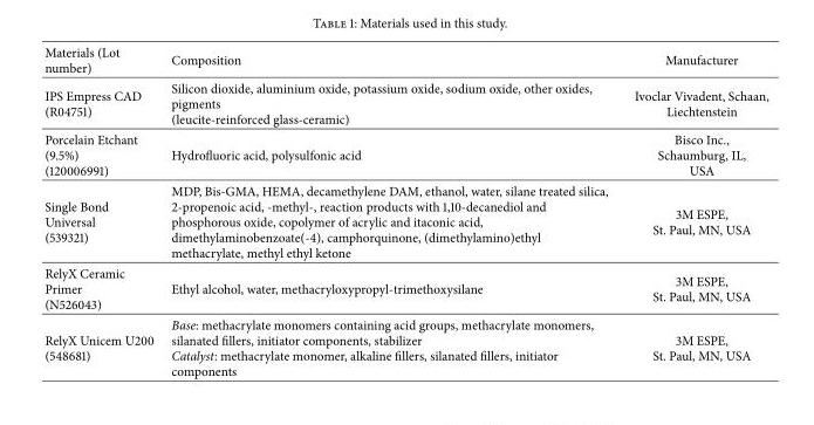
<table><thead><tr><td>Materials (Lot number)</td><td>Composition</td><td>Manufacturer</td></tr></thead><tbody><tr><td>IPS Empress CAD (R04751)</td><td>Silicon dioxide, aluminium oxide, potassium oxide, sodium oxide, other oxides, pigments (leucite-reinforced glass-ceramic)</td><td>Ivoclar Vivadent, Schaan, Liechtenstein</td></tr><tr><td>Porcelain Etchant (9.5%) (120006991)</td><td>Hydrofluoric acid, polysulfonic acid</td><td>Bisco Inc., Schaumburg, IL, USA</td></tr><tr><td>Single Bond Universal (539321)</td><td>MDP, Bis-GMA, HEMA, decamethylene DAM, ethanol, water, silane treated silica, 2-propenoic acid, -methyl-, reaction products with 1,10-decanediol and phosphorous oxide, copolymer of acrylic and itaconic acid, dimethylaminobenzoate(-4), camphorquinone, (dimethylamino)ethyl methacrylate, methyl ethyl ketone</td><td>3M ESPE, St. Paul, MN, USA</td></tr><tr><td>RelyX Ceramic Primer (N526043)</td><td>Ethyl alcohol, water, methacryloxypropyl-trimethoxysilane</td><td>3M ESPE, St. Paul, MN, USA</td></tr><tr><td>RelyX Unicem U200 (548681)</td><td>Base: methacrylate monomers containing acid groups, methacrylate monomers, silanated fillers, initiator components, stabilizer Catalyst: methacrylate monomer, alkaline fillers, silanated fillers, initiator components</td><td>3M ESPE, St. Paul, MN, USA</td></tr></tbody></table>